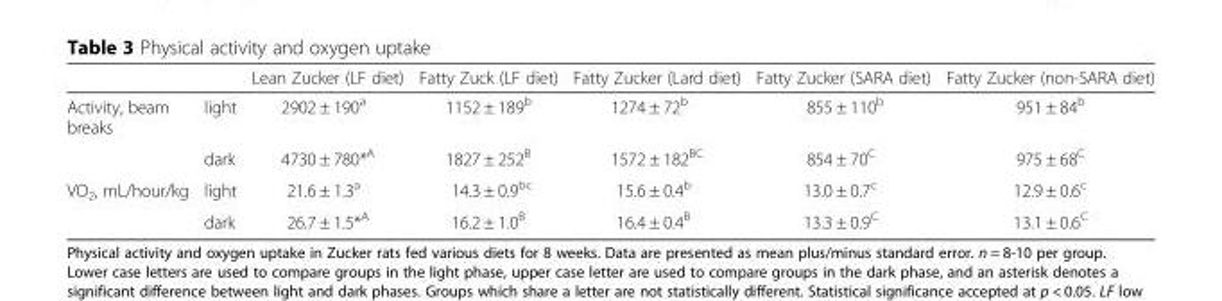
<table><thead><tr><td></td><td></td><td>Lean Zucker (LF diet)</td><td>Fatty Zuck (LF diet)</td><td>Fatty Zucker (Lard diet)</td><td>Fatty Zucker (SARA diet)</td><td>Fatty Zucker (non-SARA diet)</td></tr></thead><tbody><tr><td rowspan="2">Activity, beam breaks</td><td>light</td><td>2902 ± 190<sup>a</sup></td><td>1152 ± 189<sup>b</sup></td><td>1274 ± 72<sup>b</sup></td><td>855 ± 110<sup>b</sup></td><td>951 ± 84<sup>b</sup></td></tr><tr><td>dark</td><td>4730 ± 780*<sup>A</sup></td><td>1827 ± 252<sup>B</sup></td><td>1572 ± 182<sup>BC</sup></td><td>854 ± 70<sup>C</sup></td><td>975 ± 68<sup>C</sup></td></tr><tr><td rowspan="2">VO<sub>2</sub>, mL/hour/kg</td><td>light</td><td>21.6 ± 1.3<sup>a</sup></td><td>14.3 ± 0.9<sup>bc</sup></td><td>15.6 ± 0.4<sup>b</sup></td><td>13.0 ± 0.7<sup>c</sup></td><td>12.9 ± 0.6<sup>c</sup></td></tr><tr><td>dark</td><td>26.7 ± 1.5*<sup>A</sup></td><td>16.2 ± 1.0<sup>B</sup></td><td>16.4 ± 0.4<sup>B</sup></td><td>13.3 ± 0.9<sup>C</sup></td><td>13.1 ± 0.6<sup>C</sup></td></tr></tbody></table>